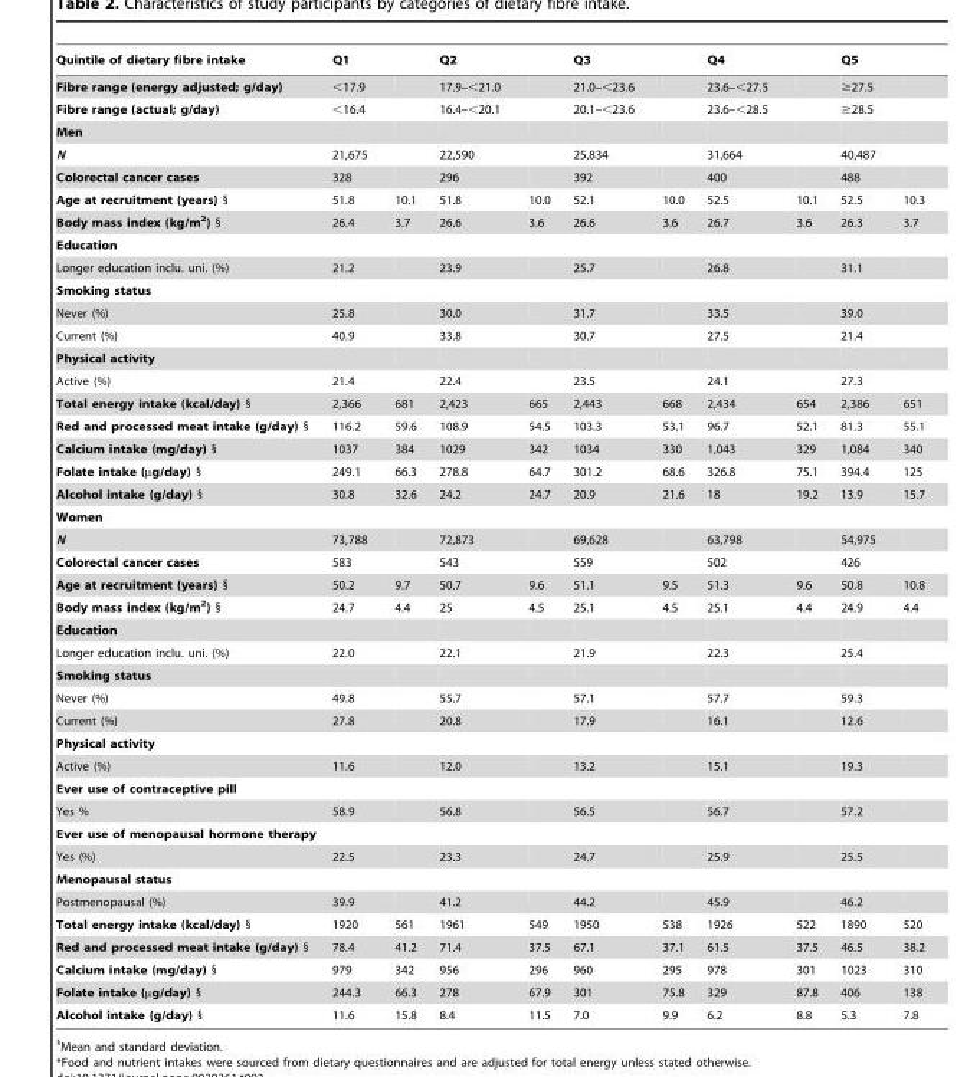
<table><thead><tr><td>Quintile of dietary fibre intake</td><td>Q1</td><td></td><td>Q2</td><td></td><td>Q3</td><td></td><td>Q4</td><td></td><td>Q5</td><td></td></tr></thead><tbody><tr><td>Fibre range (energy adjusted; g/day)</td><td>&lt;17.9</td><td></td><td>17.9–&lt;21.0</td><td></td><td>21.0–&lt;23.6</td><td></td><td>23.6–&lt;27.5</td><td></td><td>≥27.5</td><td></td></tr><tr><td>Fibre range (actual; g/day)</td><td>&lt;16.4</td><td></td><td>16.4–&lt;20.1</td><td></td><td>20.1–&lt;23.6</td><td></td><td>23.6–&lt;28.5</td><td></td><td>≥28.5</td><td></td></tr><tr><td colspan="11">Men</td></tr><tr><td>N</td><td>21,675</td><td></td><td>22,590</td><td></td><td>25,834</td><td></td><td>31,664</td><td></td><td>40,487</td><td></td></tr><tr><td>Colorectal cancer cases</td><td>328</td><td></td><td>296</td><td></td><td>392</td><td></td><td>400</td><td></td><td>488</td><td></td></tr><tr><td>Age at recruitment (years) §</td><td>51.8</td><td>10.1</td><td>51.8</td><td>10.0</td><td>52.1</td><td>10.0</td><td>52.5</td><td>10.1</td><td>52.5</td><td>10.3</td></tr><tr><td>Body mass index (kg/m<sup>2</sup>) §</td><td>26.4</td><td>3.7</td><td>26.6</td><td>3.6</td><td>26.6</td><td>3.6</td><td>26.7</td><td>3.6</td><td>26.3</td><td>3.7</td></tr><tr><td colspan="11">Education</td></tr><tr><td>Longer education inclu. uni. (%)</td><td>21.2</td><td></td><td>23.9</td><td></td><td>25.7</td><td></td><td>26.8</td><td></td><td>31.1</td><td></td></tr><tr><td colspan="11">Smoking status</td></tr><tr><td>Never (%)</td><td>25.8</td><td></td><td>30.0</td><td></td><td>31.7</td><td></td><td>33.5</td><td></td><td>39.0</td><td></td></tr><tr><td>Current (%)</td><td>40.9</td><td></td><td>33.8</td><td></td><td>30.7</td><td></td><td>27.5</td><td></td><td>21.4</td><td></td></tr><tr><td colspan="11">Physical activity</td></tr><tr><td>Active (%)</td><td>21.4</td><td></td><td>22.4</td><td></td><td>23.5</td><td></td><td>24.1</td><td></td><td>27.3</td><td></td></tr><tr><td>Total energy intake (kcal/day) §</td><td>2,366</td><td>681</td><td>2,423</td><td>665</td><td>2,443</td><td>668</td><td>2,434</td><td>654</td><td>2,386</td><td>651</td></tr><tr><td>Red and processed meat intake (g/day) §</td><td>116.2</td><td>59.6</td><td>108.9</td><td>54.5</td><td>103.3</td><td>53.1</td><td>96.7</td><td>52.1</td><td>81.3</td><td>55.1</td></tr><tr><td>Calcium intake (mg/day) §</td><td>1037</td><td>384</td><td>1029</td><td>342</td><td>1034</td><td>330</td><td>1,043</td><td>329</td><td>1,084</td><td>340</td></tr><tr><td>Folate intake (µg/day) §</td><td>249.1</td><td>66.3</td><td>278.8</td><td>64.7</td><td>301.2</td><td>68.6</td><td>326.8</td><td>75.1</td><td>394.4</td><td>125</td></tr><tr><td>Alcohol intake (g/day) §</td><td>30.8</td><td>32.6</td><td>24.2</td><td>24.7</td><td>20.9</td><td>21.6</td><td>18</td><td>19.2</td><td>13.9</td><td>15.7</td></tr><tr><td colspan="11">Women</td></tr><tr><td>N</td><td>73,788</td><td></td><td>72,873</td><td></td><td>69,628</td><td></td><td>63,798</td><td></td><td>54,975</td><td></td></tr><tr><td>Colorectal cancer cases</td><td>583</td><td></td><td>543</td><td></td><td>559</td><td></td><td>502</td><td></td><td>426</td><td></td></tr><tr><td>Age at recruitment (years) §</td><td>50.2</td><td>9.7</td><td>50.7</td><td>9.6</td><td>51.1</td><td>9.5</td><td>51.3</td><td>9.6</td><td>50.8</td><td>10.8</td></tr><tr><td>Body mass index (kg/m<sup>2</sup>) §</td><td>24.7</td><td>4.4</td><td>25</td><td>4.5</td><td>25.1</td><td>4.5</td><td>25.1</td><td>4.4</td><td>24.9</td><td>4.4</td></tr><tr><td colspan="11">Education</td></tr><tr><td>Longer education inclu. uni. (%)</td><td>22.0</td><td></td><td>22.1</td><td></td><td>21.9</td><td></td><td>22.3</td><td></td><td>25.4</td><td></td></tr><tr><td colspan="11">Smoking status</td></tr><tr><td>Never (%)</td><td>49.8</td><td></td><td>55.7</td><td></td><td>57.1</td><td></td><td>57.7</td><td></td><td>59.3</td><td></td></tr><tr><td>Current (%)</td><td>27.8</td><td></td><td>20.8</td><td></td><td>17.9</td><td></td><td>16.1</td><td></td><td>12.6</td><td></td></tr><tr><td colspan="11">Physical activity</td></tr><tr><td>Active (%)</td><td>11.6</td><td></td><td>12.0</td><td></td><td>13.2</td><td></td><td>15.1</td><td></td><td>19.3</td><td></td></tr><tr><td colspan="11">Ever use of contraceptive pill</td></tr><tr><td>Yes %</td><td>58.9</td><td></td><td>56.8</td><td></td><td>56.5</td><td></td><td>56.7</td><td></td><td>57.2</td><td></td></tr><tr><td colspan="11">Ever use of menopausal hormone therapy</td></tr><tr><td>Yes (%)</td><td>22.5</td><td></td><td>23.3</td><td></td><td>24.7</td><td></td><td>25.9</td><td></td><td>25.5</td><td></td></tr><tr><td colspan="11">Menopausal status</td></tr><tr><td>Postmenopausal (%)</td><td>39.9</td><td></td><td>41.2</td><td></td><td>44.2</td><td></td><td>45.9</td><td></td><td>46.2</td><td></td></tr><tr><td>Total energy intake (kcal/day) §</td><td>1920</td><td>561</td><td>1961</td><td>549</td><td>1950</td><td>538</td><td>1926</td><td>522</td><td>1890</td><td>520</td></tr><tr><td>Red and processed meat intake (g/day) §</td><td>78.4</td><td>41.2</td><td>71.4</td><td>37.5</td><td>67.1</td><td>37.1</td><td>61.5</td><td>37.5</td><td>46.5</td><td>38.2</td></tr><tr><td>Calcium intake (mg/day) §</td><td>979</td><td>342</td><td>956</td><td>296</td><td>960</td><td>295</td><td>978</td><td>301</td><td>1023</td><td>310</td></tr><tr><td>Folate intake (µg/day) §</td><td>244.3</td><td>66.3</td><td>278</td><td>67.9</td><td>301</td><td>75.8</td><td>329</td><td>87.8</td><td>406</td><td>138</td></tr><tr><td>Alcohol intake (g/day) §</td><td>11.6</td><td>15.8</td><td>8.4</td><td>11.5</td><td>7.0</td><td>9.9</td><td>6.2</td><td>8.8</td><td>5.3</td><td>7.8</td></tr></tbody></table>